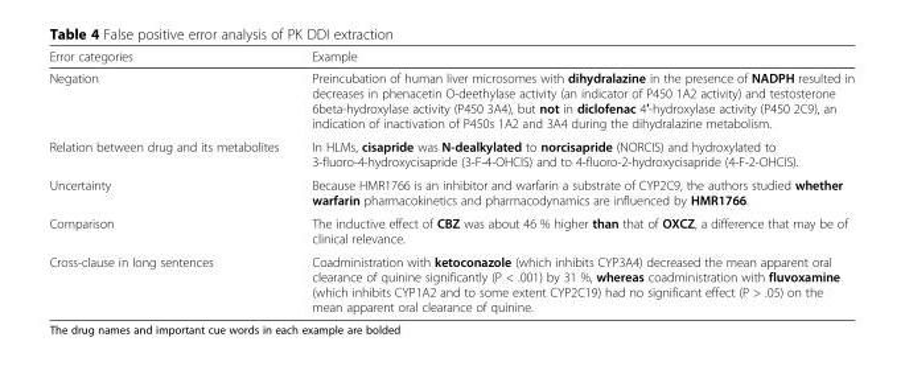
<table><thead><tr><td>Error categories</td><td>Example</td></tr></thead><tbody><tr><td>Negation</td><td>Preincubation of human liver microsomes with dihydralazine in the presence of NADPH resulted in decreases in phenacetin O-deethylase activity (an indicator of P450 1A2 activity) and testosterone 6beta-hydroxylase activity (P450 3A4), but not in diclofenac 4′-hydroxylase activity (P450 2C9), an indication of inactivation of P450s 1A2 and 3A4 during the dihydralazine metabolism.</td></tr><tr><td>Relation between drug and its metabolites</td><td>In HLMs, cisapride was N-dealkylated to norcisapride (NORCIS) and hydroxylated to 3-fluoro-4-hydroxycisapride (3-F-4-OHCIS) and to 4-fluoro-2-hydroxycisapride (4-F-2-OHCIS).</td></tr><tr><td>Uncertainty</td><td>Because HMR1766 is an inhibitor and warfarin a substrate of CYP2C9, the authors studied whether warfarin pharmacokinetics and pharmacodynamics are influenced by HMR1766.</td></tr><tr><td>Comparison</td><td>The inductive effect of CBZ was about 46 % higher than that of OXCZ, a difference that may be of clinical relevance.</td></tr><tr><td>Cross-clause in long sentences</td><td>Coadministration with ketoconazole (which inhibits CYP3A4) decreased the mean apparent oral clearance of quinine significantly (P &lt; .001) by 31 %, whereas coadministration with fluvoxamine (which inhibits CYP1A2 and to some extent CYP2C19) had no significant effect (P &gt; .05) on the mean apparent oral clearance of quinine.</td></tr></tbody></table>